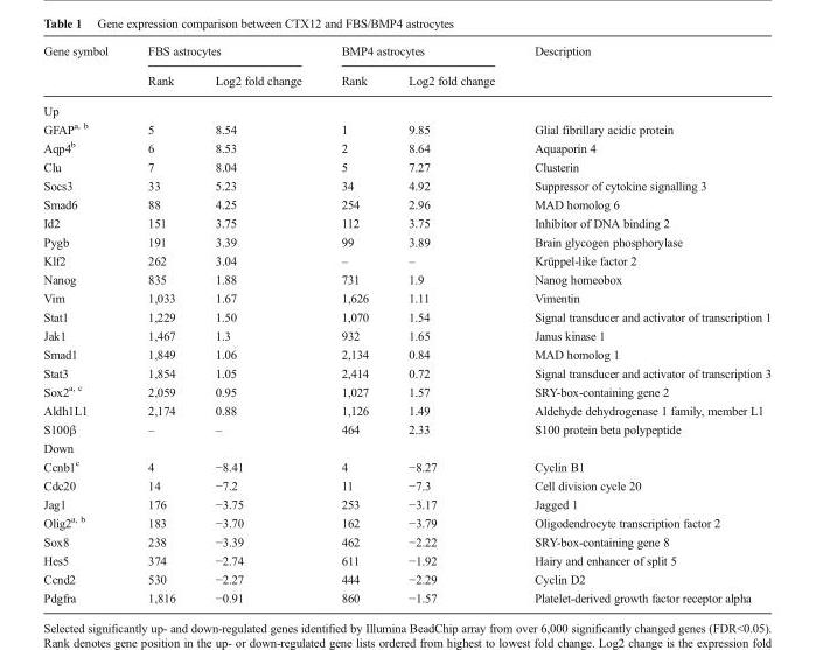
<table><thead><tr><td rowspan="2">Gene symbol</td><td colspan="2">FBS astrocytes</td><td colspan="2">BMP4 astrocytes</td><td rowspan="2">Description</td></tr><tr><td>Rank</td><td>Log2 fold change</td><td>Rank</td><td>Log2 fold change</td></tr></thead><tbody><tr><td colspan="6">Up</td></tr><tr><td>GFAP<sup>a, b</sup></td><td>5</td><td>8.54</td><td>1</td><td>9.85</td><td>Glial fibrillary acidic protein</td></tr><tr><td>Aqp4<sup>b</sup></td><td>6</td><td>8.53</td><td>2</td><td>8.64</td><td>Aquaporin 4</td></tr><tr><td>Clu</td><td>7</td><td>8.04</td><td>5</td><td>7.27</td><td>Clusterin</td></tr><tr><td>Socs3</td><td>33</td><td>5.23</td><td>34</td><td>4.92</td><td>Suppressor of cytokine signalling 3</td></tr><tr><td>Smad6</td><td>88</td><td>4.25</td><td>254</td><td>2.96</td><td>MAD homolog 6</td></tr><tr><td>Id2</td><td>151</td><td>3.75</td><td>112</td><td>3.75</td><td>Inhibitor of DNA binding 2</td></tr><tr><td>Pygb</td><td>191</td><td>3.39</td><td>99</td><td>3.89</td><td>Brain glycogen phosphorylase</td></tr><tr><td>Klf2</td><td>262</td><td>3.04</td><td>–</td><td>–</td><td>Krüppel-like factor 2</td></tr><tr><td>Nanog</td><td>835</td><td>1.88</td><td>731</td><td>1.9</td><td>Nanog homeobox</td></tr><tr><td>Vim</td><td>1,033</td><td>1.67</td><td>1,626</td><td>1.11</td><td>Vimentin</td></tr><tr><td>Stat1</td><td>1,229</td><td>1.50</td><td>1,070</td><td>1.54</td><td>Signal transducer and activator of transcription 1</td></tr><tr><td>Jak1</td><td>1,467</td><td>1.3</td><td>932</td><td>1.65</td><td>Janus kinase 1</td></tr><tr><td>Smad1</td><td>1,849</td><td>1.06</td><td>2,134</td><td>0.84</td><td>MAD homolog 1</td></tr><tr><td>Stat3</td><td>1,854</td><td>1.05</td><td>2,414</td><td>0.72</td><td>Signal transducer and activator of transcription 3</td></tr><tr><td>Sox2<sup>a, c</sup></td><td>2,059</td><td>0.95</td><td>1,027</td><td>1.57</td><td>SRY-box-containing gene 2</td></tr><tr><td>Aldh1L1</td><td>2,174</td><td>0.88</td><td>1,126</td><td>1.49</td><td>Aldehyde dehydrogenase 1 family, member L1</td></tr><tr><td>S100β</td><td>–</td><td>–</td><td>464</td><td>2.33</td><td>S100 protein beta polypeptide</td></tr><tr><td colspan="6">Down</td></tr><tr><td>Ccnb1<sup>c</sup></td><td>4</td><td>−8.41</td><td>4</td><td>−8.27</td><td>Cyclin B1</td></tr><tr><td>Cdc20</td><td>14</td><td>−7.2</td><td>11</td><td>−7.3</td><td>Cell division cycle 20</td></tr><tr><td>Jag1</td><td>176</td><td>−3.75</td><td>253</td><td>−3.17</td><td>Jagged 1</td></tr><tr><td>Olig2<sup>a, b</sup></td><td>183</td><td>−3.70</td><td>162</td><td>−3.79</td><td>Oligodendrocyte transcription factor 2</td></tr><tr><td>Sox8</td><td>238</td><td>−3.39</td><td>462</td><td>−2.22</td><td>SRY-box-containing gene 8</td></tr><tr><td>Hes5</td><td>374</td><td>−2.74</td><td>611</td><td>−1.92</td><td>Hairy and enhancer of split 5</td></tr><tr><td>Ccnd2</td><td>530</td><td>−2.27</td><td>444</td><td>−2.29</td><td>Cyclin D2</td></tr><tr><td>Pdgfra</td><td>1,816</td><td>−0.91</td><td>860</td><td>−1.57</td><td>Platelet-derived growth factor receptor alpha</td></tr></tbody></table>